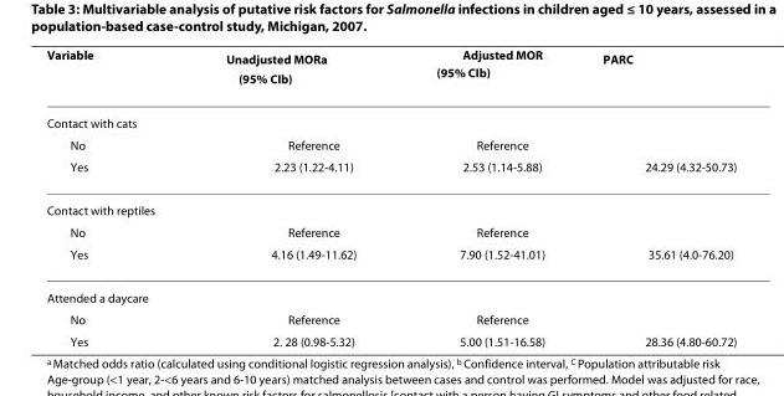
<table><thead><tr><td>Variable</td><td>Unadjusted MOR<sup>a</sup> (95% CI<sup>b</sup>)</td><td>Adjusted MOR (95% CI<sup>b</sup>)</td><td>PAR<sup>C</sup></td></tr></thead><tbody><tr><td colspan="4">Contact with cats</td></tr><tr><td>No</td><td>Reference</td><td>Reference</td><td></td></tr><tr><td>Yes</td><td>2.23 (1.22-4.11)</td><td>2.53 (1.14-5.88)</td><td>24.29 (4.32-50.73)</td></tr><tr><td colspan="4">Contact with reptiles</td></tr><tr><td>No</td><td>Reference</td><td>Reference</td><td></td></tr><tr><td>Yes</td><td>4.16 (1.49-11.62)</td><td>7.90 (1.52-41.01)</td><td>35.61 (4.0-76.20)</td></tr><tr><td colspan="4">Attended a daycare</td></tr><tr><td>No</td><td>Reference</td><td>Reference</td><td></td></tr><tr><td>Yes</td><td>2. 28 (0.98-5.32)</td><td>5.00 (1.51-16.58)</td><td>28.36 (4.80-60.72)</td></tr></tbody></table>